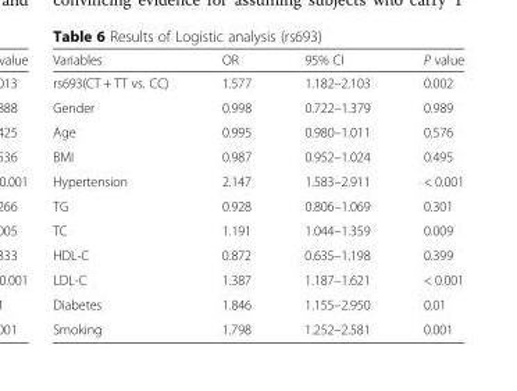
<table><thead><tr><td>Variables</td><td>OR</td><td>95% CI</td><td>P value</td></tr></thead><tbody><tr><td>rs693(CT + TT vs. CC)</td><td>1.577</td><td>1.182–2.103</td><td>0.002</td></tr><tr><td>Gender</td><td>0.998</td><td>0.722–1.379</td><td>0.989</td></tr><tr><td>Age</td><td>0.995</td><td>0.980–1.011</td><td>0.576</td></tr><tr><td>BMI</td><td>0.987</td><td>0.952–1.024</td><td>0.495</td></tr><tr><td>Hypertension</td><td>2.147</td><td>1.583–2.911</td><td>&lt; 0.001</td></tr><tr><td>TG</td><td>0.928</td><td>0.806–1.069</td><td>0.301</td></tr><tr><td>TC</td><td>1.191</td><td>1.044–1.359</td><td>0.009</td></tr><tr><td>HDL-C</td><td>0.872</td><td>0.635–1.198</td><td>0.399</td></tr><tr><td>LDL-C</td><td>1.387</td><td>1.187–1.621</td><td>&lt; 0.001</td></tr><tr><td>Diabetes</td><td>1.846</td><td>1.155–2.950</td><td>0.01</td></tr><tr><td>Smoking</td><td>1.798</td><td>1.252–2.581</td><td>0.001</td></tr></tbody></table>